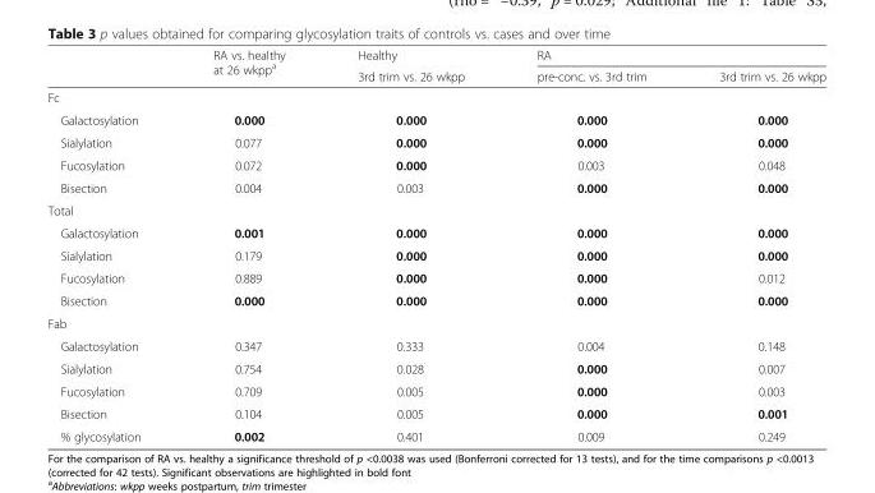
<table><thead><tr><td rowspan="2"></td><td rowspan="2">RA vs. healthy at 26 wkpp<sup>a</sup></td><td rowspan="2">Healthy 3rd trim vs. 26 wkpp</td><td colspan="2">RA</td></tr><tr><td>pre-conc. vs. 3rd trim</td><td>3rd trim vs. 26 wkpp</td></tr></thead><tbody><tr><td colspan="5">Fc</td></tr><tr><td>Galactosylation</td><td>0.000</td><td>0.000</td><td>0.000</td><td>0.000</td></tr><tr><td>Sialylation</td><td>0.077</td><td>0.000</td><td>0.000</td><td>0.000</td></tr><tr><td>Fucosylation</td><td>0.072</td><td>0.000</td><td>0.003</td><td>0.048</td></tr><tr><td>Bisection</td><td>0.004</td><td>0.003</td><td>0.000</td><td>0.000</td></tr><tr><td colspan="5">Total</td></tr><tr><td>Galactosylation</td><td>0.001</td><td>0.000</td><td>0.000</td><td>0.000</td></tr><tr><td>Sialylation</td><td>0.179</td><td>0.000</td><td>0.000</td><td>0.000</td></tr><tr><td>Fucosylation</td><td>0.889</td><td>0.000</td><td>0.000</td><td>0.012</td></tr><tr><td>Bisection</td><td>0.000</td><td>0.000</td><td>0.000</td><td>0.000</td></tr><tr><td colspan="5">Fab</td></tr><tr><td>Galactosylation</td><td>0.347</td><td>0.333</td><td>0.004</td><td>0.148</td></tr><tr><td>Sialylation</td><td>0.754</td><td>0.028</td><td>0.000</td><td>0.007</td></tr><tr><td>Fucosylation</td><td>0.709</td><td>0.005</td><td>0.000</td><td>0.003</td></tr><tr><td>Bisection</td><td>0.104</td><td>0.005</td><td>0.000</td><td>0.001</td></tr><tr><td>% glycosylation</td><td>0.002</td><td>0.401</td><td>0.009</td><td>0.249</td></tr></tbody></table>